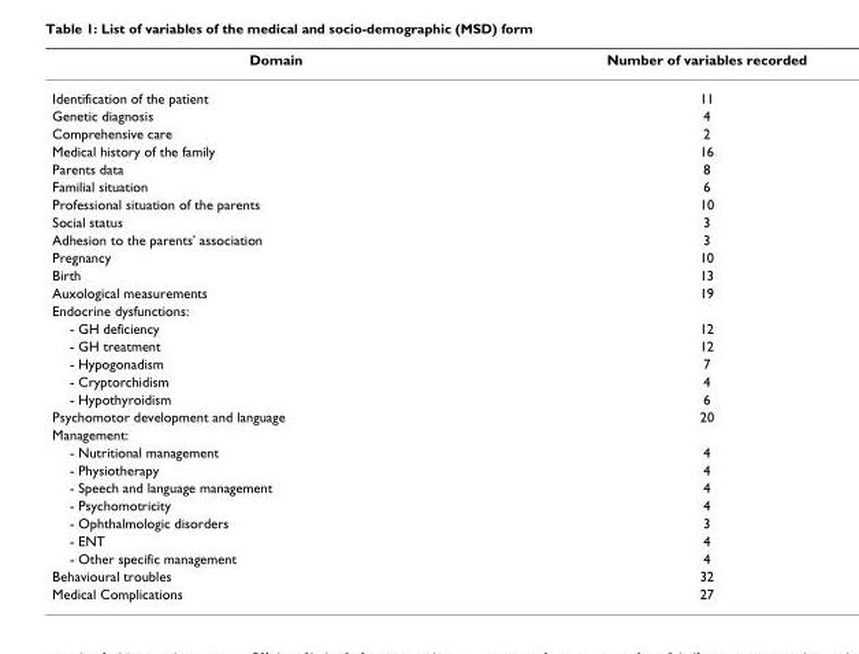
<table><thead><tr><td>Domain</td><td>Number of variables recorded</td></tr></thead><tbody><tr><td>Identification of the patient</td><td>11</td></tr><tr><td>Genetic diagnosis</td><td>4</td></tr><tr><td>Comprehensive care</td><td>2</td></tr><tr><td>Medical history of the family</td><td>16</td></tr><tr><td>Parents data</td><td>8</td></tr><tr><td>Familial situation</td><td>6</td></tr><tr><td>Professional situation of the parents</td><td>10</td></tr><tr><td>Social status</td><td>3</td></tr><tr><td>Adhesion to the parents&#x27; association</td><td>3</td></tr><tr><td>Pregnancy</td><td>10</td></tr><tr><td>Birth</td><td>13</td></tr><tr><td>Auxological measurements</td><td>19</td></tr><tr><td colspan="2">Endocrine dysfunctions:</td></tr><tr><td>- GH deficiency</td><td>12</td></tr><tr><td>- GH treatment</td><td>12</td></tr><tr><td>- Hypogonadism</td><td>7</td></tr><tr><td>- Cryptorchidism</td><td>4</td></tr><tr><td>- Hypothyroidism</td><td>6</td></tr><tr><td>Psychomotor development and language</td><td>20</td></tr><tr><td colspan="2">Management:</td></tr><tr><td>- Nutritional management</td><td>4</td></tr><tr><td>- Physiotherapy</td><td>4</td></tr><tr><td>- Speech and language management</td><td>4</td></tr><tr><td>- Psychomotricity</td><td>4</td></tr><tr><td>- Ophthalmologic disorders</td><td>3</td></tr><tr><td>- ENT</td><td>4</td></tr><tr><td>- Other specific management</td><td>4</td></tr><tr><td>Behavioural troubles</td><td>32</td></tr><tr><td>Medical Complications</td><td>27</td></tr></tbody></table>